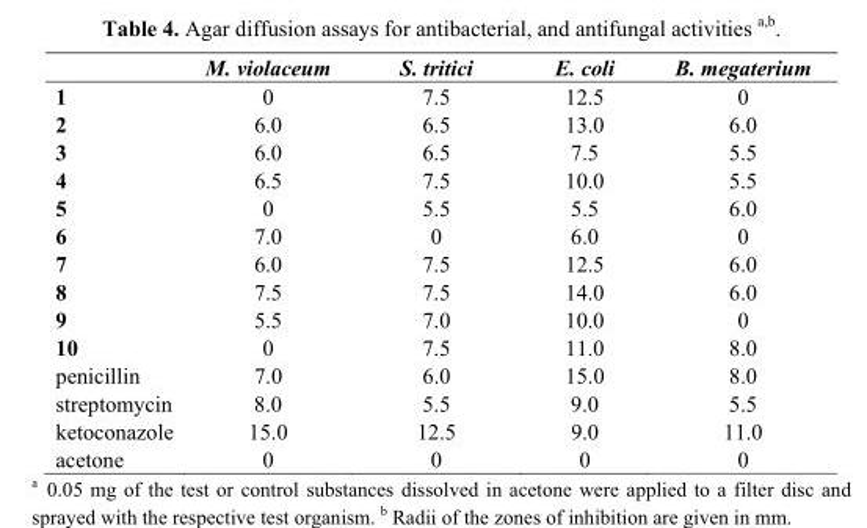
<table><thead><tr><td></td><td>M. violaceum</td><td>S. tritici</td><td>E. coli</td><td>B. megaterium</td></tr></thead><tbody><tr><td>1</td><td>0</td><td>7.5</td><td>12.5</td><td>0</td></tr><tr><td>2</td><td>6.0</td><td>6.5</td><td>13.0</td><td>6.0</td></tr><tr><td>3</td><td>6.0</td><td>6.5</td><td>7.5</td><td>5.5</td></tr><tr><td>4</td><td>6.5</td><td>7.5</td><td>10.0</td><td>5.5</td></tr><tr><td>5</td><td>0</td><td>5.5</td><td>5.5</td><td>6.0</td></tr><tr><td>6</td><td>7.0</td><td>0</td><td>6.0</td><td>0</td></tr><tr><td>7</td><td>6.0</td><td>7.5</td><td>12.5</td><td>6.0</td></tr><tr><td>8</td><td>7.5</td><td>7.5</td><td>14.0</td><td>6.0</td></tr><tr><td>9</td><td>5.5</td><td>7.0</td><td>10.0</td><td>0</td></tr><tr><td>10</td><td>0</td><td>7.5</td><td>11.0</td><td>8.0</td></tr><tr><td>penicillin</td><td>7.0</td><td>6.0</td><td>15.0</td><td>8.0</td></tr><tr><td>streptomycin</td><td>8.0</td><td>5.5</td><td>9.0</td><td>5.5</td></tr><tr><td>ketoconazole</td><td>15.0</td><td>12.5</td><td>9.0</td><td>11.0</td></tr><tr><td>acetone</td><td>0</td><td>0</td><td>0</td><td>0</td></tr></tbody></table>